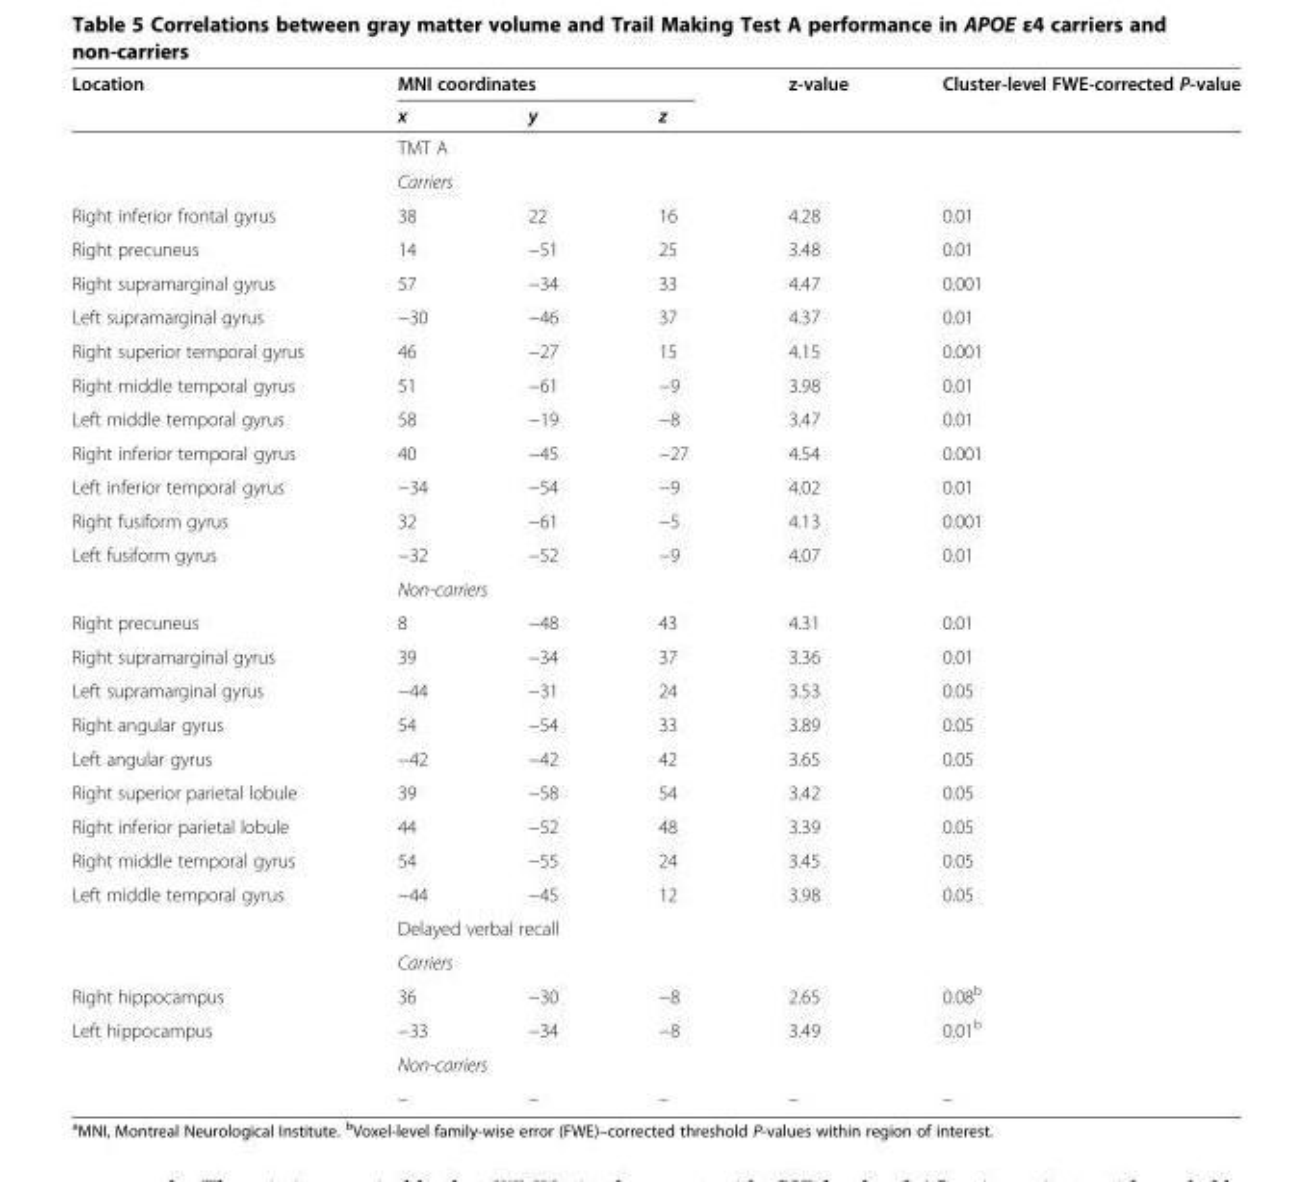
<table><thead><tr><td rowspan="2">Location</td><td colspan="3">MNI coordinates</td><td rowspan="2">z-value</td><td rowspan="2">Cluster-level FWE-corrected P-value</td></tr><tr><td>x</td><td>y</td><td>z</td></tr></thead><tbody><tr><td></td><td colspan="5">TMT A</td></tr><tr><td></td><td colspan="5">Carriers</td></tr><tr><td>Right inferior frontal gyrus</td><td>38</td><td>22</td><td>16</td><td>4.28</td><td>0.01</td></tr><tr><td>Right precuneus</td><td>14</td><td>−51</td><td>25</td><td>3.48</td><td>0.01</td></tr><tr><td>Right supramarginal gyrus</td><td>57</td><td>−34</td><td>33</td><td>4.47</td><td>0.001</td></tr><tr><td>Left supramarginal gyrus</td><td>−30</td><td>−46</td><td>37</td><td>4.37</td><td>0.01</td></tr><tr><td>Right superior temporal gyrus</td><td>46</td><td>−27</td><td>15</td><td>4.15</td><td>0.001</td></tr><tr><td>Right middle temporal gyrus</td><td>51</td><td>−61</td><td>−9</td><td>3.98</td><td>0.01</td></tr><tr><td>Left middle temporal gyrus</td><td>58</td><td>−19</td><td>−8</td><td>3.47</td><td>0.01</td></tr><tr><td>Right inferior temporal gyrus</td><td>40</td><td>−45</td><td>−27</td><td>4.54</td><td>0.001</td></tr><tr><td>Left inferior temporal gyrus</td><td>−34</td><td>−54</td><td>−9</td><td>4.02</td><td>0.01</td></tr><tr><td>Right fusiform gyrus</td><td>32</td><td>−61</td><td>−5</td><td>4.13</td><td>0.001</td></tr><tr><td rowspan="2">Left fusiform gyrus</td><td>−32</td><td>−52</td><td>−9</td><td>4.07</td><td>0.01</td></tr><tr><td colspan="5">Non-carriers</td></tr><tr><td>Right precuneus</td><td>8</td><td>−48</td><td>43</td><td>4.31</td><td>0.01</td></tr><tr><td>Right supramarginal gyrus</td><td>39</td><td>−34</td><td>37</td><td>3.36</td><td>0.01</td></tr><tr><td>Left supramarginal gyrus</td><td>−44</td><td>−31</td><td>24</td><td>3.53</td><td>0.05</td></tr><tr><td>Right angular gyrus</td><td>54</td><td>−54</td><td>33</td><td>3.89</td><td>0.05</td></tr><tr><td>Left angular gyrus</td><td>−42</td><td>−42</td><td>42</td><td>3.65</td><td>0.05</td></tr><tr><td>Right superior parietal lobule</td><td>39</td><td>−58</td><td>54</td><td>3.42</td><td>0.05</td></tr><tr><td>Right inferior parietal lobule</td><td>44</td><td>−52</td><td>48</td><td>3.39</td><td>0.05</td></tr><tr><td>Right middle temporal gyrus</td><td>54</td><td>−55</td><td>24</td><td>3.45</td><td>0.05</td></tr><tr><td rowspan="3">Left middle temporal gyrus</td><td>−44</td><td>−45</td><td>12</td><td>3.98</td><td>0.05</td></tr><tr><td colspan="5">Delayed verbal recall</td></tr><tr><td colspan="5">Carriers</td></tr><tr><td>Right hippocampus</td><td>36</td><td>−30</td><td>−8</td><td>2.65</td><td>0.08<sup>b</sup></td></tr><tr><td rowspan="3">Left hippocampus</td><td>−33</td><td>−34</td><td>−8</td><td>3.49</td><td>0.01<sup>b</sup></td></tr><tr><td colspan="5">Non-carriers</td></tr><tr><td>–</td><td>–</td><td>–</td><td>–</td><td>–</td></tr></tbody></table>